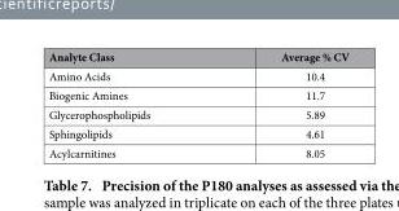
<table><thead><tr><td>Analyte Class</td><td>Average % CV</td></tr></thead><tbody><tr><td>Amino Acids</td><td>10.4</td></tr><tr><td>Biogenic Amines</td><td>11.7</td></tr><tr><td>Glycerophospholipids</td><td>5.89</td></tr><tr><td>Sphingolipids</td><td>4.61</td></tr><tr><td>Acylcarnitines</td><td>8.05</td></tr></tbody></table>